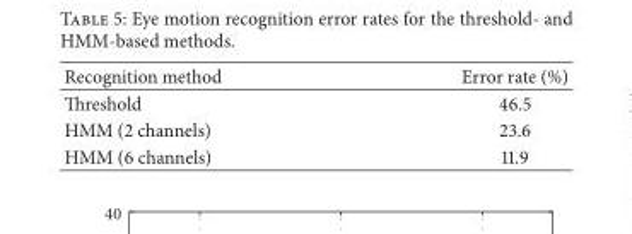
<table><thead><tr><td>Recognition method</td><td>Error rate (%)</td></tr></thead><tbody><tr><td>Threshold</td><td>46.5</td></tr><tr><td>HMM (2 channels)</td><td>23.6</td></tr><tr><td>HMM (6 channels)</td><td>11.9</td></tr></tbody></table>